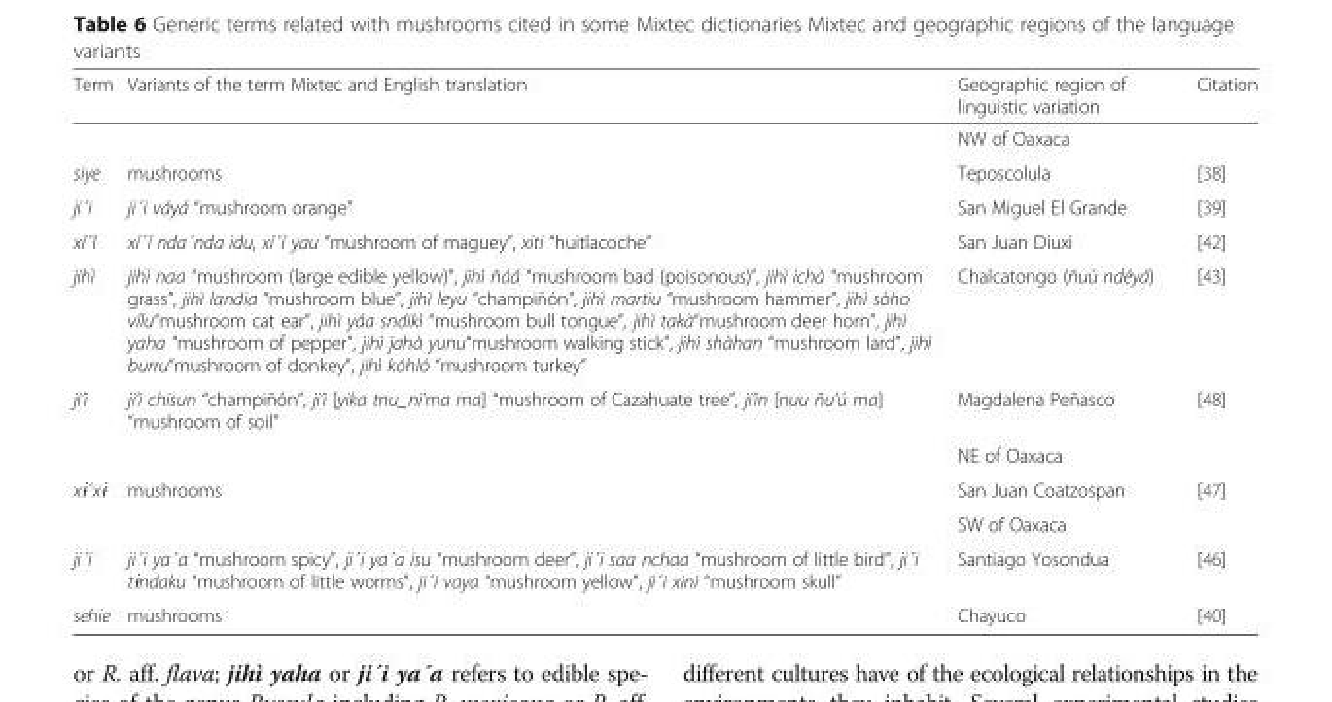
<table><thead><tr><td>Term</td><td>Variants of the term Mixtec and English translation</td><td>Geographic region of linguistic variation</td><td>Citation</td></tr></thead><tbody><tr><td></td><td></td><td>NW of Oaxaca</td><td></td></tr><tr><td>siye</td><td>mushrooms</td><td>Teposcolula</td><td>[38]</td></tr><tr><td>ji´i</td><td>ji´i váyá “mushroom orange”</td><td>San Miguel El Grande</td><td>[39]</td></tr><tr><td>xí´î</td><td>xí´í nda´nda idu, xí´í yau “mushroom of maguey”, xiti “huitlacoche”</td><td>San Juan Diuxi</td><td>[42]</td></tr><tr><td>jihì</td><td>jihì naa “mushroom (large edible yellow)”, jihì ñáá “mushroom bad (poisonous)”, jihì ichà “mushroom grass”, jihì landia “mushroom blue”, jihì leyu “champiñón”, jihì martiu “mushroom hammer”, jihì sòho vílu“mushroom cat ear”, jihì yáa sndikì “mushroom bull tongue”, jihì takà“mushroom deer horn”, jihì yaha “mushroom of pepper”, jihì jahà yunu“mushroom walking stick”, jihì shàhan “mushroom lard”, jihì burru“mushroom of donkey”, jihì kóhló “mushroom turkey”</td><td>Chalcatongo (ñuù ndéyá)</td><td>[43]</td></tr><tr><td rowspan="2">ji’i</td><td>ji’i chisun “champiñón”, ji’i [yika tnu_ni’ma ma] “mushroom of Cazahuate tree”, ji’in [nuu ñu’ú ma] “mushroom of soil”</td><td>Magdalena Peñasco</td><td>[48]</td></tr><tr><td></td><td>NE of Oaxaca</td><td></td></tr><tr><td rowspan="2">xɨ´xɨ</td><td>mushrooms</td><td>San Juan Coatzospan</td><td>[47]</td></tr><tr><td></td><td>SW of Oaxaca</td><td></td></tr><tr><td>ji´i</td><td>ji´i ya´a “mushroom spicy”, ji´i ya´a isu “mushroom deer”, ji´i saa nchaa “mushroom of little bird”, ji´i tɨndaku “mushroom of little worms”, ji´i vaya “mushroom yellow”, ji´i xini “mushroom skull”</td><td>Santiago Yosondua</td><td>[46]</td></tr><tr><td>sehie</td><td>mushrooms</td><td>Chayuco</td><td>[40]</td></tr></tbody></table>